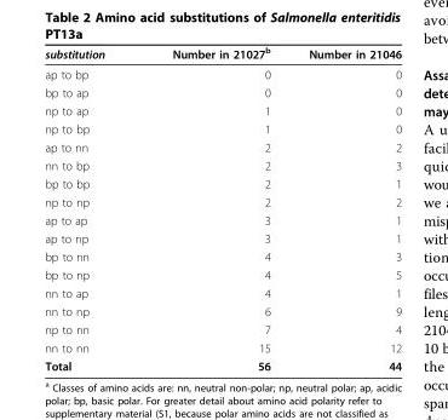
<table><thead><tr><td>substitution</td><td>Number in 21027<sup>b</sup></td><td>Number in 21046</td></tr></thead><tbody><tr><td>ap to bp</td><td>0</td><td>0</td></tr><tr><td>bp to ap</td><td>0</td><td>0</td></tr><tr><td>np to ap</td><td>1</td><td>0</td></tr><tr><td>np to bp</td><td>1</td><td>0</td></tr><tr><td>ap to nn</td><td>2</td><td>2</td></tr><tr><td>nn to bp</td><td>2</td><td>3</td></tr><tr><td>bp to bp</td><td>2</td><td>1</td></tr><tr><td>np to np</td><td>2</td><td>2</td></tr><tr><td>ap to ap</td><td>3</td><td>1</td></tr><tr><td>ap to np</td><td>3</td><td>1</td></tr><tr><td>bp to nn</td><td>4</td><td>3</td></tr><tr><td>bp to np</td><td>4</td><td>5</td></tr><tr><td>nn to ap</td><td>4</td><td>1</td></tr><tr><td>nn to np</td><td>6</td><td>9</td></tr><tr><td>np to nn</td><td>7</td><td>4</td></tr><tr><td>nn to nn</td><td>15</td><td>12</td></tr><tr><td>Total</td><td>56</td><td>44</td></tr></tbody></table>